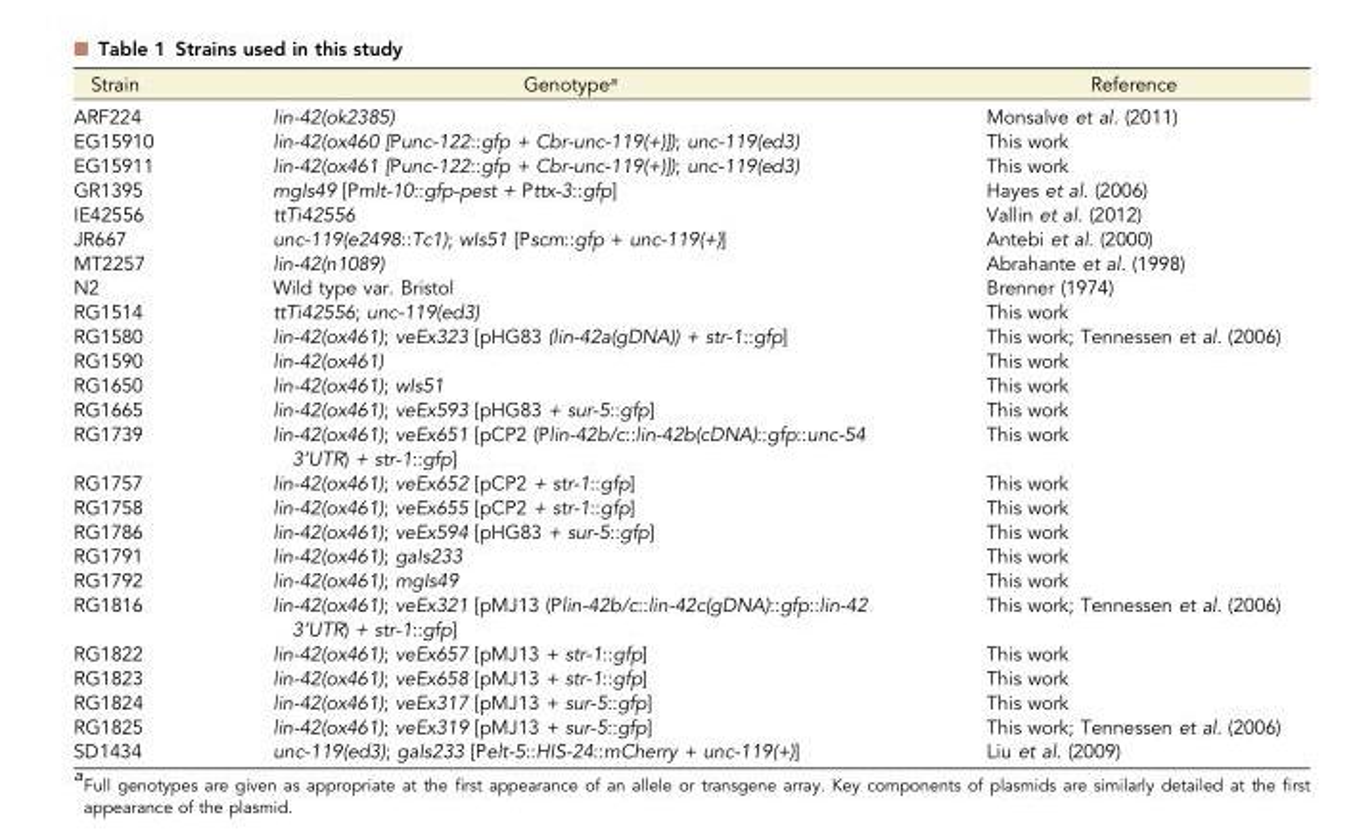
<table><thead><tr><td>Strain</td><td>Genotype<sup>a</sup></td><td>Reference</td></tr></thead><tbody><tr><td>ARF224</td><td>lin-42(ok2385)</td><td>Monsalve et al. (2011)</td></tr><tr><td>EG15910</td><td>lin-42(ox460 [Punc-122::gfp + Cbr-unc-119(+)]); unc-119(ed3)</td><td>This work</td></tr><tr><td>EG15911</td><td>lin-42(ox461 [Punc-122::gfp + Cbr-unc-119(+)]); unc-119(ed3)</td><td>This work</td></tr><tr><td>GR1395</td><td>mgIs49 [Pmlt-10::gfp-pest + Pttx-3::gfp]</td><td>Hayes et al. (2006)</td></tr><tr><td>IE42556</td><td>ttTi42556</td><td>Vallin et al. (2012)</td></tr><tr><td>JR667</td><td>unc-119(e2498::Tc1); wIs51 [Pscm::gfp + unc-119(+)]</td><td>Antebi et al. (2000)</td></tr><tr><td>MT2257</td><td>lin-42(n1089)</td><td>Abrahante et al. (1998)</td></tr><tr><td>N2</td><td>Wild type var. Bristol</td><td>Brenner (1974)</td></tr><tr><td>RG1514</td><td>ttTi42556; unc-119(ed3)</td><td>This work</td></tr><tr><td>RG1580</td><td>lin-42(ox461); veEx323 [pHG83 (lin-42a(gDNA)) + str-1::gfp]</td><td>This work; Tennessen et al. (2006)</td></tr><tr><td>RG1590</td><td>lin-42(ox461)</td><td>This work</td></tr><tr><td>RG1650</td><td>lin-42(ox461); wIs51</td><td>This work</td></tr><tr><td>RG1665</td><td>lin-42(ox461); veEx593 [pHG83 + sur-5::gfp]</td><td>This work</td></tr><tr><td>RG1739</td><td>lin-42(ox461); veEx651 [pCP2 (Plin-42b/c::lin-42b(cDNA)::gfp::unc-54 3’UTR) + str-1::gfp]</td><td>This work</td></tr><tr><td>RG1757</td><td>lin-42(ox461); veEx652 [pCP2 + str-1::gfp]</td><td>This work</td></tr><tr><td>RG1758</td><td>lin-42(ox461); veEx655 [pCP2 + str-1::gfp]</td><td>This work</td></tr><tr><td>RG1786</td><td>lin-42(ox461); veEx594 [pHG83 + sur-5::gfp]</td><td>This work</td></tr><tr><td>RG1791</td><td>lin-42(ox461); gaIs233</td><td>This work</td></tr><tr><td>RG1792</td><td>lin-42(ox461); mgIs49</td><td>This work</td></tr><tr><td>RG1816</td><td>lin-42(ox461); veEx321 [pMJ13 (Plin-42b/c::lin-42c(gDNA)::gfp::lin-42 3’UTR) + str-1::gfp]</td><td>This work; Tennessen et al. (2006)</td></tr><tr><td>RG1822</td><td>lin-42(ox461); veEx657 [pMJ13 + str-1::gfp]</td><td>This work</td></tr><tr><td>RG1823</td><td>lin-42(ox461); veEx658 [pMJ13 + str-1::gfp]</td><td>This work</td></tr><tr><td>RG1824</td><td>lin-42(ox461); veEx317 [pMJ13 + sur-5::gfp]</td><td>This work</td></tr><tr><td>RG1825</td><td>lin-42(ox461); veEx319 [pMJ13 + sur-5::gfp]</td><td>This work; Tennessen et al. (2006)</td></tr><tr><td>SD1434</td><td>unc-119(ed3); gaIs233 [Pelt-5::HIS-24::mCherry + unc-119(+)]</td><td>Liu et al. (2009)</td></tr></tbody></table>